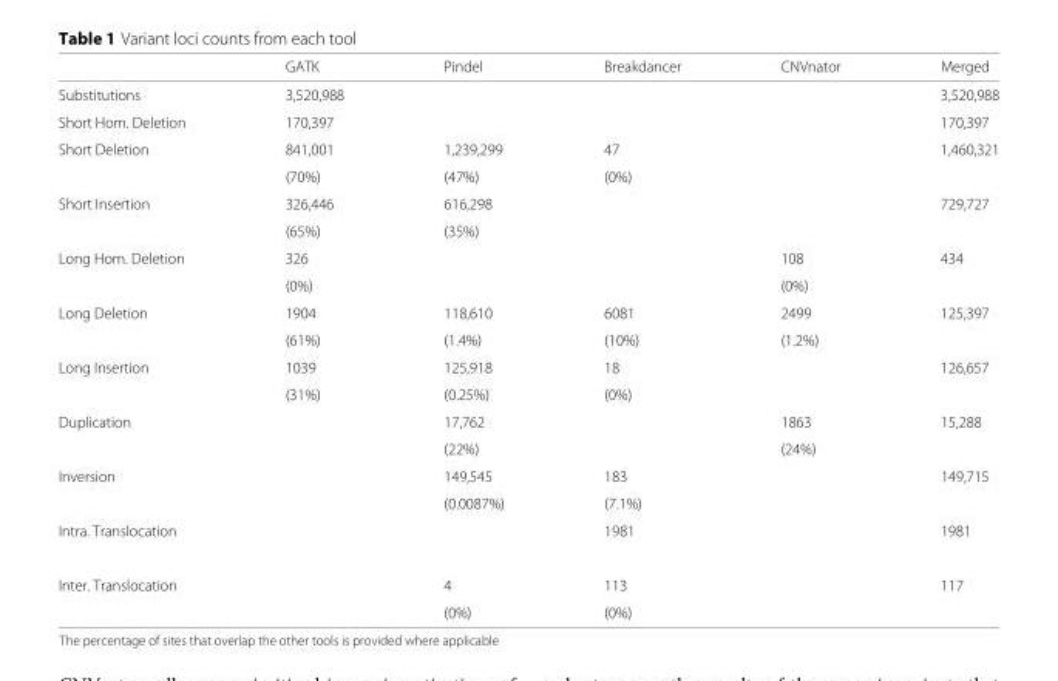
<table><thead><tr><td></td><td>GATK</td><td>Pindel</td><td>Breakdancer</td><td>CNVnator</td><td>Merged</td></tr></thead><tbody><tr><td>Substitutions</td><td>3,520,988</td><td></td><td></td><td></td><td>3,520,988</td></tr><tr><td>Short Hom. Deletion</td><td>170,397</td><td></td><td></td><td></td><td>170,397</td></tr><tr><td rowspan="2">Short Deletion</td><td>841,001</td><td>1,239,299</td><td>47</td><td></td><td>1,460,321</td></tr><tr><td>(70%)</td><td>(47%)</td><td>(0%)</td><td></td><td></td></tr><tr><td rowspan="2">Short Insertion</td><td>326,446</td><td>616,298</td><td></td><td></td><td>729,727</td></tr><tr><td>(65%)</td><td>(35%)</td><td></td><td></td><td></td></tr><tr><td rowspan="2">Long Hom. Deletion</td><td>326</td><td></td><td></td><td>108</td><td>434</td></tr><tr><td>(0%)</td><td></td><td></td><td>(0%)</td><td></td></tr><tr><td rowspan="2">Long Deletion</td><td>1904</td><td>118,610</td><td>6081</td><td>2499</td><td>125,397</td></tr><tr><td>(61%)</td><td>(1.4%)</td><td>(10%)</td><td>(1.2%)</td><td></td></tr><tr><td rowspan="2">Long Insertion</td><td>1039</td><td>125,918</td><td>18</td><td></td><td>126,657</td></tr><tr><td>(31%)</td><td>(0.25%)</td><td>(0%)</td><td></td><td></td></tr><tr><td rowspan="2">Duplication</td><td></td><td>17,762</td><td></td><td>1863</td><td>15,288</td></tr><tr><td></td><td>(22%)</td><td></td><td>(24%)</td><td></td></tr><tr><td rowspan="2">Inversion</td><td></td><td>149,545</td><td>183</td><td></td><td>149,715</td></tr><tr><td></td><td>(0.0087%)</td><td>(7.1%)</td><td></td><td></td></tr><tr><td>Intra. Translocation</td><td></td><td></td><td>1981</td><td></td><td>1981</td></tr><tr><td rowspan="2">Inter. Translocation</td><td></td><td>4</td><td>113</td><td></td><td>117</td></tr><tr><td></td><td>(0%)</td><td>(0%)</td><td></td><td></td></tr></tbody></table>